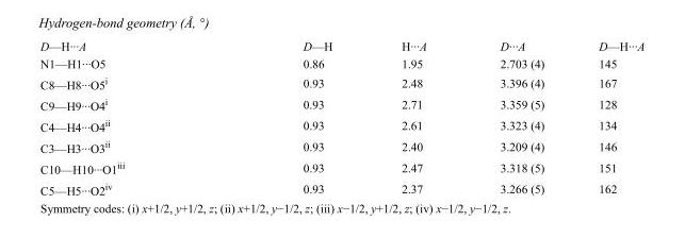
<table><tbody><tr><td>D—H···A</td><td>D—H</td><td>H···A</td><td>D···A</td><td>D—H···A</td></tr><tr><td>N1—H1···O5</td><td>0.86</td><td>1.95</td><td>2.703 (4)</td><td>145</td></tr><tr><td>C8—H8···O5<sup>i</sup></td><td>0.93</td><td>2.48</td><td>3.396 (4)</td><td>167</td></tr><tr><td>C9—H9···O4<sup>i</sup></td><td>0.93</td><td>2.71</td><td>3.359 (5)</td><td>128</td></tr><tr><td>C4—H4···O4<sup>ii</sup></td><td>0.93</td><td>2.61</td><td>3.323 (4)</td><td>134</td></tr><tr><td>C3—H3···O3<sup>ii</sup></td><td>0.93</td><td>2.40</td><td>3.209 (4)</td><td>146</td></tr><tr><td>C10—H10···O1<sup>iii</sup></td><td>0.93</td><td>2.47</td><td>3.318 (5)</td><td>151</td></tr><tr><td>C5—H5···O2<sup>iv</sup></td><td>0.93</td><td>2.37</td><td>3.266 (5)</td><td>162</td></tr></tbody></table>